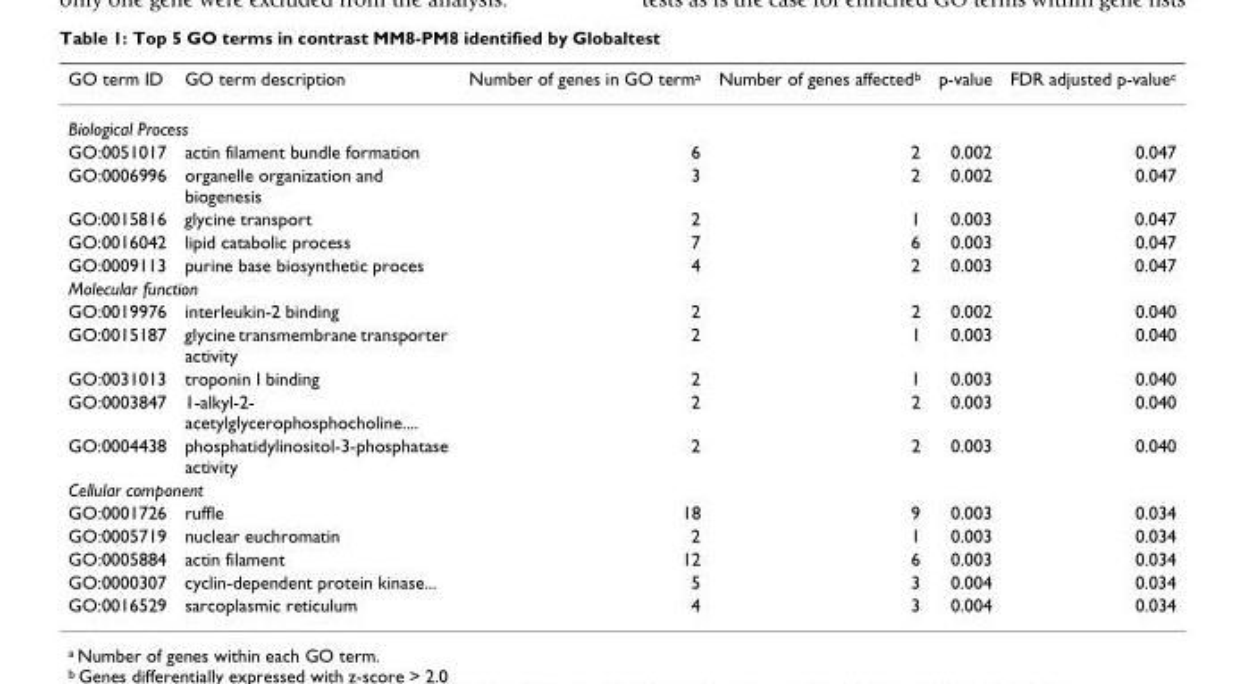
<table><thead><tr><td>GO term ID</td><td>GO term description</td><td>Number of genes in GO term<sup>a</sup></td><td>Number of genes affected<sup>b</sup></td><td>p-value</td><td>FDR adjusted p-value<sup>c</sup></td></tr></thead><tbody><tr><td colspan="6">Biological Process</td></tr><tr><td>GO:0051017</td><td>actin filament bundle formation</td><td>6</td><td>2</td><td>0.002</td><td>0.047</td></tr><tr><td>GO:0006996</td><td>organelle organization and biogenesis</td><td>3</td><td>2</td><td>0.002</td><td>0.047</td></tr><tr><td>GO:0015816</td><td>glycine transport</td><td>2</td><td>1</td><td>0.003</td><td>0.047</td></tr><tr><td>GO:0016042</td><td>lipid catabolic process</td><td>7</td><td>6</td><td>0.003</td><td>0.047</td></tr><tr><td>GO:0009113</td><td>purine base biosynthetic proces</td><td>4</td><td>2</td><td>0.003</td><td>0.047</td></tr><tr><td colspan="6">Molecular function</td></tr><tr><td>GO:0019976</td><td>interleukin-2 binding</td><td>2</td><td>2</td><td>0.002</td><td>0.040</td></tr><tr><td>GO:0015187</td><td>glycine transmembrane transporter activity</td><td>2</td><td>1</td><td>0.003</td><td>0.040</td></tr><tr><td>GO:0031013</td><td>troponin I binding</td><td>2</td><td>1</td><td>0.003</td><td>0.040</td></tr><tr><td>GO:0003847</td><td>1-alkyl-2- acetylglycerophosphocholine....</td><td>2</td><td>2</td><td>0.003</td><td>0.040</td></tr><tr><td>GO:0004438</td><td>phosphatidylinositol-3-phosphatase activity</td><td>2</td><td>2</td><td>0.003</td><td>0.040</td></tr><tr><td colspan="6">Cellular component</td></tr><tr><td>GO:0001726</td><td>ruffle</td><td>18</td><td>9</td><td>0.003</td><td>0.034</td></tr><tr><td>GO:0005719</td><td>nuclear euchromatin</td><td>2</td><td>1</td><td>0.003</td><td>0.034</td></tr><tr><td>GO:0005884</td><td>actin filament</td><td>12</td><td>6</td><td>0.003</td><td>0.034</td></tr><tr><td>GO:0000307</td><td>cyclin-dependent protein kinase...</td><td>5</td><td>3</td><td>0.004</td><td>0.034</td></tr><tr><td>GO:0016529</td><td>sarcoplasmic reticulum</td><td>4</td><td>3</td><td>0.004</td><td>0.034</td></tr></tbody></table>